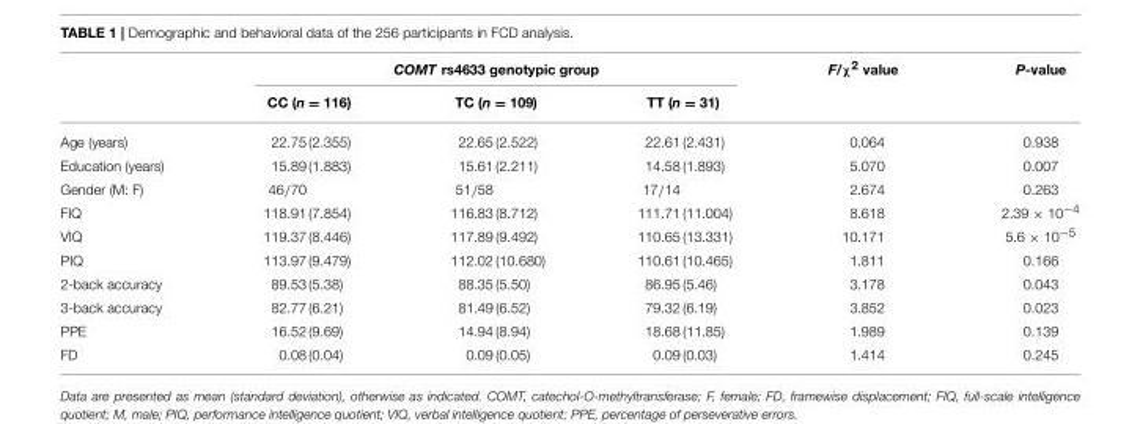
<table><thead><tr><td rowspan="2"></td><td colspan="3">COMT rs4633 genotypic group</td><td rowspan="2">F/χ<sup>2</sup> value</td><td rowspan="2">P-value</td></tr><tr><td>CC (n = 116)</td><td>TC (n = 109)</td><td>TT (n = 31)</td></tr></thead><tbody><tr><td>Age (years)</td><td>22.75 (2.355)</td><td>22.65 (2.522)</td><td>22.61 (2.431)</td><td>0.064</td><td>0.938</td></tr><tr><td>Education (years)</td><td>15.89 (1.883)</td><td>15.61 (2.211)</td><td>14.58 (1.893)</td><td>5.070</td><td>0.007</td></tr><tr><td>Gender (M: F)</td><td>46/70</td><td>51/58</td><td>17/14</td><td>2.674</td><td>0.263</td></tr><tr><td>FIQ</td><td>118.91 (7.854)</td><td>116.83 (8.712)</td><td>111.71 (11.004)</td><td>8.618</td><td>2.39 × 10<sup>−4</sup></td></tr><tr><td>VIQ</td><td>119.37 (8.446)</td><td>117.89 (9.492)</td><td>110.65 (13.331)</td><td>10.171</td><td>5.6 × 10<sup>−5</sup></td></tr><tr><td>PIQ</td><td>113.97 (9.479)</td><td>112.02 (10.680)</td><td>110.61 (10.465)</td><td>1.811</td><td>0.166</td></tr><tr><td>2-back accuracy</td><td>89.53 (5.38)</td><td>88.35 (5.50)</td><td>86.95 (5.46)</td><td>3.178</td><td>0.043</td></tr><tr><td>3-back accuracy</td><td>82.77 (6.21)</td><td>81.49 (6.52)</td><td>79.32 (6.19)</td><td>3.852</td><td>0.023</td></tr><tr><td>PPE</td><td>16.52 (9.69)</td><td>14.94 (8.94)</td><td>18.68 (11.85)</td><td>1.989</td><td>0.139</td></tr><tr><td>FD</td><td>0.08 (0.04)</td><td>0.09 (0.05)</td><td>0.09 (0.03)</td><td>1.414</td><td>0.245</td></tr></tbody></table>